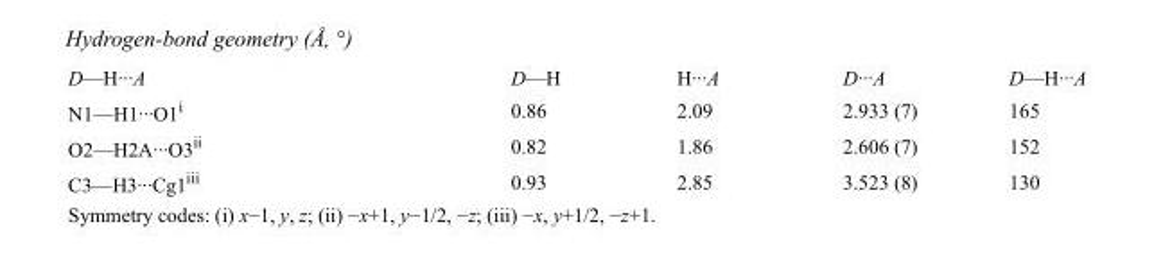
<table><tbody><tr><td>D—H···A</td><td>D—H</td><td>H···A</td><td>D···A</td><td>D—H···A</td></tr><tr><td>N1—H1···O1<sup>i</sup></td><td>0.86</td><td>2.09</td><td>2.933 (7)</td><td>165</td></tr><tr><td>O2—H2A···O3<sup>ii</sup></td><td>0.82</td><td>1.86</td><td>2.606 (7)</td><td>152</td></tr><tr><td>C3—H3···Cg1<sup>iii</sup></td><td>0.93</td><td>2.85</td><td>3.523 (8)</td><td>130</td></tr></tbody></table>